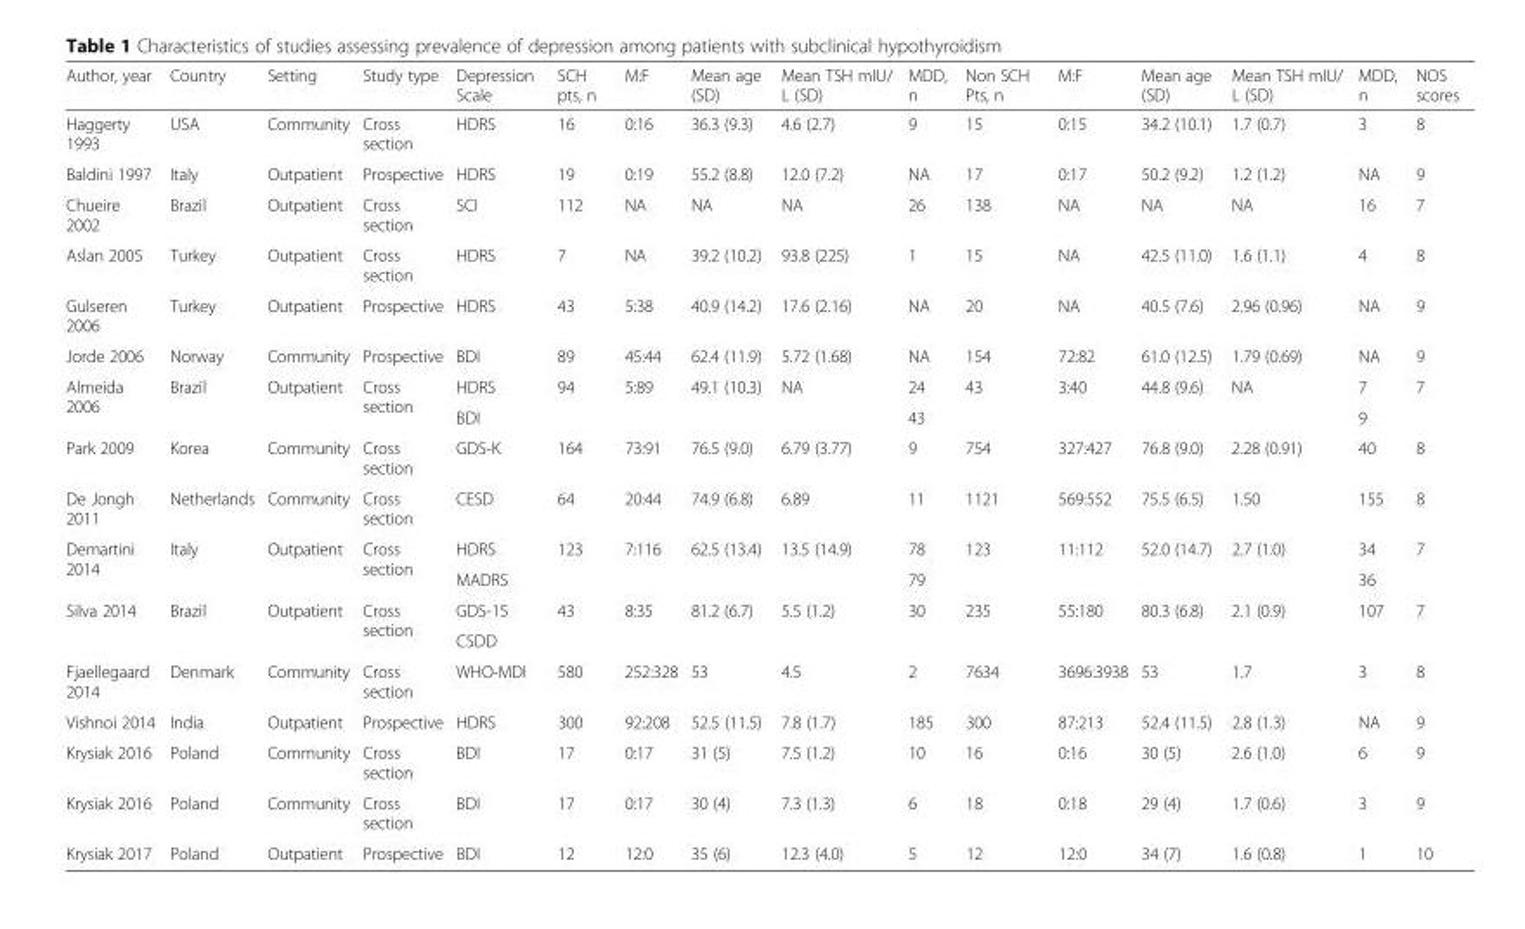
<table><thead><tr><td>Author, year</td><td>Country</td><td>Setting</td><td>Study type</td><td>Depression Scale</td><td>SCH pts, n</td><td>M:F</td><td>Mean age (SD)</td><td>Mean TSH mIU/ L (SD)</td><td>MDD, n</td><td>Non SCH Pts, n</td><td>M:F</td><td>Mean age (SD)</td><td>Mean TSH mIU/ L (SD)</td><td>MDD, n</td><td>NOS scores</td></tr></thead><tbody><tr><td>Haggerty 1993</td><td>USA</td><td>Community</td><td>Cross section</td><td>HDRS</td><td>16</td><td>0:16</td><td>36.3 (9.3)</td><td>4.6 (2.7)</td><td>9</td><td>15</td><td>0:15</td><td>34.2 (10.1)</td><td>1.7 (0.7)</td><td>3</td><td>8</td></tr><tr><td>Baldini 1997</td><td>Italy</td><td>Outpatient</td><td>Prospective</td><td>HDRS</td><td>19</td><td>0:19</td><td>55.2 (8.8)</td><td>12.0 (7.2)</td><td>NA</td><td>17</td><td>0:17</td><td>50.2 (9.2)</td><td>1.2 (1.2)</td><td>NA</td><td>9</td></tr><tr><td>Chueire 2002</td><td>Brazil</td><td>Outpatient</td><td>Cross section</td><td>SCI</td><td>112</td><td>NA</td><td>NA</td><td>NA</td><td>26</td><td>138</td><td>NA</td><td>NA</td><td>NA</td><td>16</td><td>7</td></tr><tr><td>Aslan 2005</td><td>Turkey</td><td>Outpatient</td><td>Cross section</td><td>HDRS</td><td>7</td><td>NA</td><td>39.2 (10.2)</td><td>93.8 (225)</td><td>1</td><td>15</td><td>NA</td><td>42.5 (11.0)</td><td>1.6 (1.1)</td><td>4</td><td>8</td></tr><tr><td>Gulseren 2006</td><td>Turkey</td><td>Outpatient</td><td>Prospective</td><td>HDRS</td><td>43</td><td>5:38</td><td>40.9 (14.2)</td><td>17.6 (2.16)</td><td>NA</td><td>20</td><td>NA</td><td>40.5 (7.6)</td><td>2.96 (0.96)</td><td>NA</td><td>9</td></tr><tr><td>Jorde 2006</td><td>Norway</td><td>Community</td><td>Prospective</td><td>BDI</td><td>89</td><td>45:44</td><td>62.4 (11.9)</td><td>5.72 (1.68)</td><td>NA</td><td>154</td><td>72:82</td><td>61.0 (12.5)</td><td>1.79 (0.69)</td><td>NA</td><td>9</td></tr><tr><td rowspan="2">Almeida 2006</td><td rowspan="2">Brazil</td><td rowspan="2">Outpatient</td><td rowspan="2">Cross section</td><td>HDRS</td><td rowspan="2">94</td><td rowspan="2">5:89</td><td rowspan="2">49.1 (10.3)</td><td rowspan="2">NA</td><td>24</td><td rowspan="2">43</td><td rowspan="2">3:40</td><td rowspan="2">44.8 (9.6)</td><td rowspan="2">NA</td><td>7</td><td rowspan="2">7</td></tr><tr><td>BDI</td><td>43</td><td>9</td></tr><tr><td>Park 2009</td><td>Korea</td><td>Community</td><td>Cross section</td><td>GDS-K</td><td>164</td><td>73:91</td><td>76.5 (9.0)</td><td>6.79 (3.77)</td><td>9</td><td>754</td><td>327:427</td><td>76.8 (9.0)</td><td>2.28 (0.91)</td><td>40</td><td>8</td></tr><tr><td>De Jongh 2011</td><td>Netherlands</td><td>Community</td><td>Cross section</td><td>CESD</td><td>64</td><td>20:44</td><td>74.9 (6.8)</td><td>6.89</td><td>11</td><td>1121</td><td>569:552</td><td>75.5 (6.5)</td><td>1.50</td><td>155</td><td>8</td></tr><tr><td rowspan="2">Demartini 2014</td><td rowspan="2">Italy</td><td rowspan="2">Outpatient</td><td rowspan="2">Cross section</td><td>HDRS</td><td rowspan="2">123</td><td rowspan="2">7:116</td><td rowspan="2">62.5 (13.4)</td><td rowspan="2">13.5 (14.9)</td><td>78</td><td rowspan="2">123</td><td rowspan="2">11:112</td><td rowspan="2">52.0 (14.7)</td><td rowspan="2">2.7 (1.0)</td><td>34</td><td rowspan="2">7</td></tr><tr><td>MADRS</td><td>79</td><td>36</td></tr><tr><td rowspan="2">Silva 2014</td><td rowspan="2">Brazil</td><td rowspan="2">Outpatient</td><td rowspan="2">Cross section</td><td>GDS-15</td><td rowspan="2">43</td><td rowspan="2">8:35</td><td rowspan="2">81.2 (6.7)</td><td rowspan="2">5.5 (1.2)</td><td rowspan="2">30</td><td rowspan="2">235</td><td rowspan="2">55:180</td><td rowspan="2">80.3 (6.8)</td><td rowspan="2">2.1 (0.9)</td><td rowspan="2">107</td><td rowspan="2">7</td></tr><tr><td>CSDD</td></tr><tr><td>Fjaellegaard 2014</td><td>Denmark</td><td>Community</td><td>Cross section</td><td>WHO-MDI</td><td>580</td><td>252:328</td><td>53</td><td>4.5</td><td>2</td><td>7634</td><td>3696:3938</td><td>53</td><td>1.7</td><td>3</td><td>8</td></tr><tr><td>Vishnoi 2014</td><td>India</td><td>Outpatient</td><td>Prospective</td><td>HDRS</td><td>300</td><td>92:208</td><td>52.5 (11.5)</td><td>7.8 (1.7)</td><td>185</td><td>300</td><td>87:213</td><td>52.4 (11.5)</td><td>2.8 (1.3)</td><td>NA</td><td>9</td></tr><tr><td>Krysiak 2016</td><td>Poland</td><td>Community</td><td>Cross section</td><td>BDI</td><td>17</td><td>0:17</td><td>31 (5)</td><td>7.5 (1.2)</td><td>10</td><td>16</td><td>0:16</td><td>30 (5)</td><td>2.6 (1.0)</td><td>6</td><td>9</td></tr><tr><td>Krysiak 2016</td><td>Poland</td><td>Community</td><td>Cross section</td><td>BDI</td><td>17</td><td>0:17</td><td>30 (4)</td><td>7.3 (1.3)</td><td>6</td><td>18</td><td>0:18</td><td>29 (4)</td><td>1.7 (0.6)</td><td>3</td><td>9</td></tr><tr><td>Krysiak 2017</td><td>Poland</td><td>Outpatient</td><td>Prospective</td><td>BDI</td><td>12</td><td>12:0</td><td>35 (6)</td><td>12.3 (4.0)</td><td>5</td><td>12</td><td>12:0</td><td>34 (7)</td><td>1.6 (0.8)</td><td>1</td><td>10</td></tr></tbody></table>